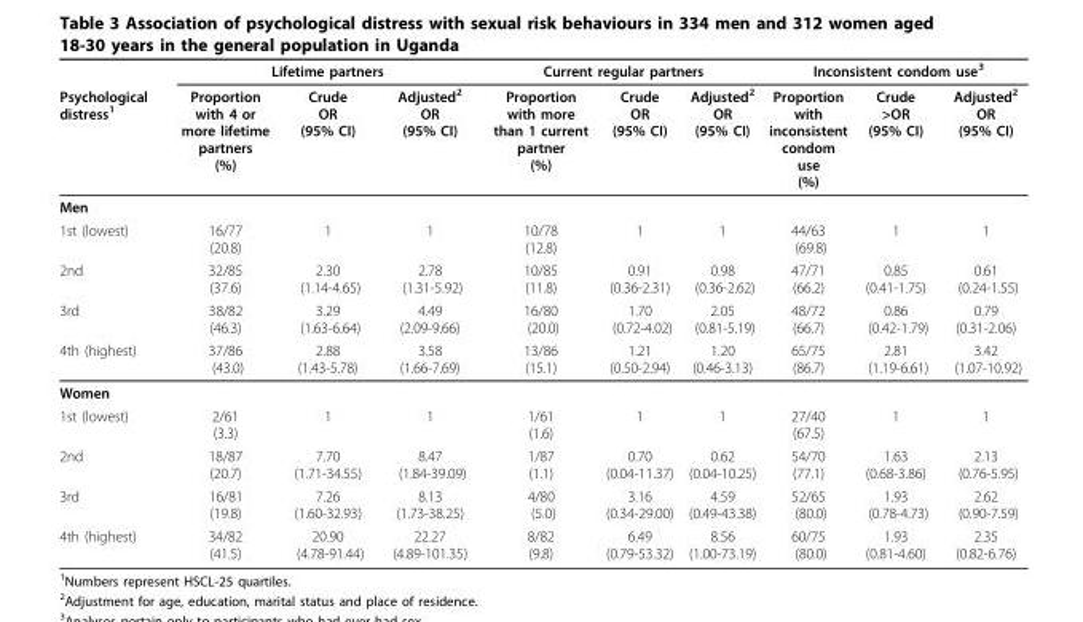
<table><thead><tr><td rowspan="2">Psychological distress<sup>1</sup></td><td colspan="3">Lifetime partners</td><td colspan="3">Current regular partners</td><td colspan="3">Inconsistent condom use<sup>3</sup></td></tr><tr><td>Proportion with 4 or more lifetime partners (%)</td><td>Crude OR (95% CI)</td><td>Adjusted<sup>2</sup> OR (95% CI)</td><td>Proportion with more than 1 current partner (%)</td><td>Crude OR (95% CI)</td><td>Adjusted<sup>2</sup> OR (95% CI)</td><td>Proportion with inconsistent condom use (%)</td><td>Crude &gt;OR (95% CI)</td><td>Adjusted<sup>2</sup> OR (95% CI)</td></tr></thead><tbody><tr><td colspan="10">Men</td></tr><tr><td>1st (lowest)</td><td>16/77 (20.8)</td><td>1</td><td>1</td><td>10/78 (12.8)</td><td>1</td><td>1</td><td>44/63 (69.8)</td><td>1</td><td>1</td></tr><tr><td>2nd</td><td>32/85 (37.6)</td><td>2.30 (1.14-4.65)</td><td>2.78 (1.31-5.92)</td><td>10/85 (11.8)</td><td>0.91 (0.36-2.31)</td><td>0.98 (0.36-2.62)</td><td>47/71 (66.2)</td><td>0.85 (0.41-1.75)</td><td>0.61 (0.24-1.55)</td></tr><tr><td>3rd</td><td>38/82 (46.3)</td><td>3.29 (1.63-6.64)</td><td>4.49 (2.09-9.66)</td><td>16/80 (20.0)</td><td>1.70 (0.72-4.02)</td><td>2.05 (0.81-5.19)</td><td>48/72 (66.7)</td><td>0.86 (0.42-1.79)</td><td>0.79 (0.31-2.06)</td></tr><tr><td>4th (highest)</td><td>37/86 (43.0)</td><td>2.88 (1.43-5.78)</td><td>3.58 (1.66-7.69)</td><td>13/86 (15.1)</td><td>1.21 (0.50-2.94)</td><td>1.20 (0.46-3.13)</td><td>65/75 (86.7)</td><td>2.81 (1.19-6.61)</td><td>3.42 (1.07-10.92)</td></tr><tr><td colspan="10">Women</td></tr><tr><td>1st (lowest)</td><td>2/61 (3.3)</td><td>1</td><td>1</td><td>1/61 (1.6)</td><td>1</td><td>1</td><td>27/40 (67.5)</td><td>1</td><td>1</td></tr><tr><td>2nd</td><td>18/87 (20.7)</td><td>7.70 (1.71-34.55)</td><td>8.47 (1.84-39.09)</td><td>1/87 (1.1)</td><td>0.70 (0.04-11.37)</td><td>0.62 (0.04-10.25)</td><td>54/70 (77.1)</td><td>1.63 (0.68-3.86)</td><td>2.13 (0.76-5.95)</td></tr><tr><td>3rd</td><td>16/81 (19.8)</td><td>7.26 (1.60-32.93)</td><td>8.13 (1.73-38.25)</td><td>4/80 (5.0)</td><td>3.16 (0.34-29.00)</td><td>4.59 (0.49-43.38)</td><td>52/65 (80.0)</td><td>1.93 (0.78-4.73)</td><td>2.62 (0.90-7.59)</td></tr><tr><td>4th (highest)</td><td>34/82 (41.5)</td><td>20.90 (4.78-91.44)</td><td>22.27 (4.89-101.35)</td><td>8/82 (9.8)</td><td>6.49 (0.79-53.32)</td><td>8.56 (1.00-73.19)</td><td>60/75 (80.0)</td><td>1.93 (0.81-4.60)</td><td>2.35 (0.82-6.76)</td></tr></tbody></table>